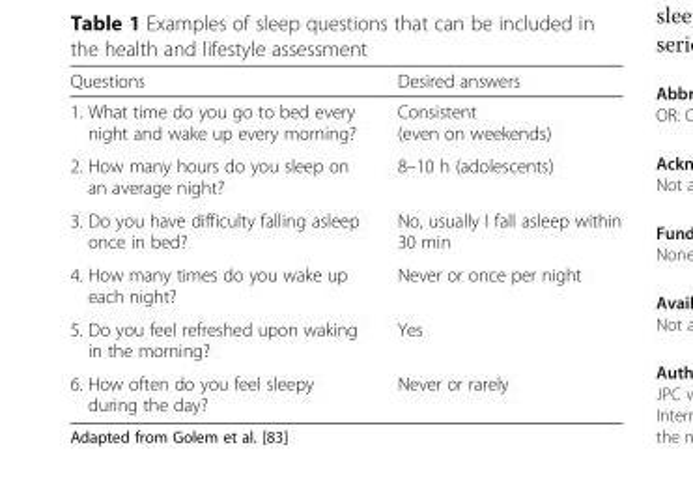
<table><thead><tr><td>Questions</td><td>Desired answers</td></tr></thead><tbody><tr><td>1. What time do you go to bed every night and wake up every morning?</td><td>Consistent (even on weekends)</td></tr><tr><td>2. How many hours do you sleep on an average night?</td><td>8–10 h (adolescents)</td></tr><tr><td>3. Do you have difficulty falling asleep once in bed?</td><td>No, usually I fall asleep within 30 min</td></tr><tr><td>4. How many times do you wake up each night?</td><td>Never or once per night</td></tr><tr><td>5. Do you feel refreshed upon waking in the morning?</td><td>Yes</td></tr><tr><td>6. How often do you feel sleepy during the day?</td><td>Never or rarely</td></tr></tbody></table>